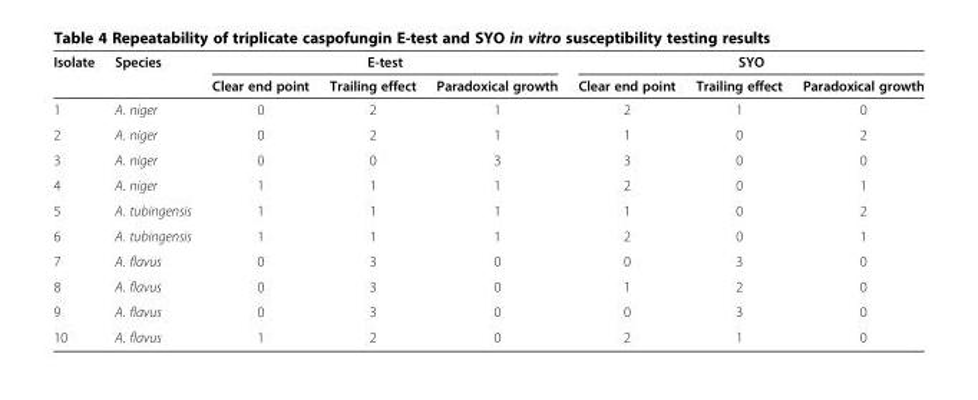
<table><thead><tr><td rowspan="2">Isolate</td><td rowspan="2">Species</td><td colspan="3">E-test</td><td colspan="3">SYO</td></tr><tr><td>Clear end point</td><td>Trailing effect</td><td>Paradoxical growth</td><td>Clear end point</td><td>Trailing effect</td><td>Paradoxical growth</td></tr></thead><tbody><tr><td>1</td><td>A. niger</td><td>0</td><td>2</td><td>1</td><td>2</td><td>1</td><td>0</td></tr><tr><td>2</td><td>A. niger</td><td>0</td><td>2</td><td>1</td><td>1</td><td>0</td><td>2</td></tr><tr><td>3</td><td>A. niger</td><td>0</td><td>0</td><td>3</td><td>3</td><td>0</td><td>0</td></tr><tr><td>4</td><td>A. niger</td><td>1</td><td>1</td><td>1</td><td>2</td><td>0</td><td>1</td></tr><tr><td>5</td><td>A. tubingensis</td><td>1</td><td>1</td><td>1</td><td>1</td><td>0</td><td>2</td></tr><tr><td>6</td><td>A. tubingensis</td><td>1</td><td>1</td><td>1</td><td>2</td><td>0</td><td>1</td></tr><tr><td>7</td><td>A. flavus</td><td>0</td><td>3</td><td>0</td><td>0</td><td>3</td><td>0</td></tr><tr><td>8</td><td>A. flavus</td><td>0</td><td>3</td><td>0</td><td>1</td><td>2</td><td>0</td></tr><tr><td>9</td><td>A. flavus</td><td>0</td><td>3</td><td>0</td><td>0</td><td>3</td><td>0</td></tr><tr><td>10</td><td>A. flavus</td><td>1</td><td>2</td><td>0</td><td>2</td><td>1</td><td>0</td></tr></tbody></table>